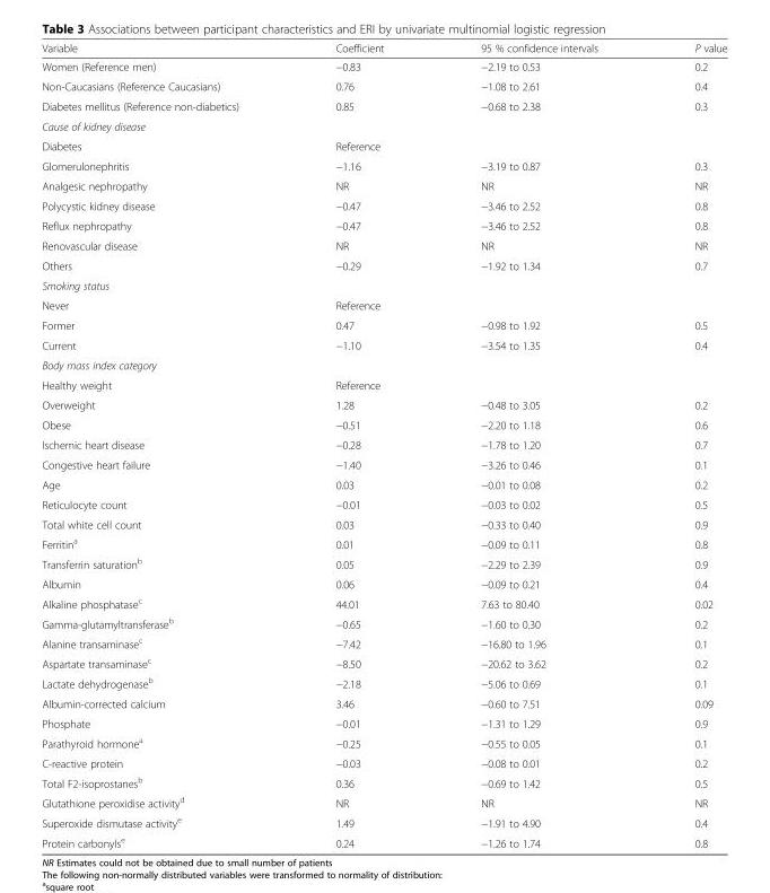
<table><thead><tr><td>Variable</td><td>Coefficient</td><td>95 % confidence intervals</td><td>P value</td></tr></thead><tbody><tr><td>Women (Reference men)</td><td>−0.83</td><td>−2.19 to 0.53</td><td>0.2</td></tr><tr><td>Non-Caucasians (Reference Caucasians)</td><td>0.76</td><td>−1.08 to 2.61</td><td>0.4</td></tr><tr><td>Diabetes mellitus (Reference non-diabetics)</td><td>0.85</td><td>−0.68 to 2.38</td><td>0.3</td></tr><tr><td colspan="4">Cause of kidney disease</td></tr><tr><td>Diabetes</td><td>Reference</td><td></td><td></td></tr><tr><td>Glomerulonephritis</td><td>−1.16</td><td>−3.19 to 0.87</td><td>0.3</td></tr><tr><td>Analgesic nephropathy</td><td>NR</td><td>NR</td><td>NR</td></tr><tr><td>Polycystic kidney disease</td><td>−0.47</td><td>−3.46 to 2.52</td><td>0.8</td></tr><tr><td>Reflux nephropathy</td><td>−0.47</td><td>−3.46 to 2.52</td><td>0.8</td></tr><tr><td>Renovascular disease</td><td>NR</td><td>NR</td><td>NR</td></tr><tr><td>Others</td><td>−0.29</td><td>−1.92 to 1.34</td><td>0.7</td></tr><tr><td colspan="4">Smoking status</td></tr><tr><td>Never</td><td>Reference</td><td></td><td></td></tr><tr><td>Former</td><td>0.47</td><td>−0.98 to 1.92</td><td>0.5</td></tr><tr><td>Current</td><td>−1.10</td><td>−3.54 to 1.35</td><td>0.4</td></tr><tr><td colspan="4">Body mass index category</td></tr><tr><td>Healthy weight</td><td>Reference</td><td></td><td></td></tr><tr><td>Overweight</td><td>1.28</td><td>−0.48 to 3.05</td><td>0.2</td></tr><tr><td>Obese</td><td>−0.51</td><td>−2.20 to 1.18</td><td>0.6</td></tr><tr><td>Ischemic heart disease</td><td>−0.28</td><td>−1.78 to 1.20</td><td>0.7</td></tr><tr><td>Congestive heart failure</td><td>−1.40</td><td>−3.26 to 0.46</td><td>0.1</td></tr><tr><td>Age</td><td>0.03</td><td>−0.01 to 0.08</td><td>0.2</td></tr><tr><td>Reticulocyte count</td><td>−0.01</td><td>−0.03 to 0.02</td><td>0.5</td></tr><tr><td>Total white cell count</td><td>0.03</td><td>−0.33 to 0.40</td><td>0.9</td></tr><tr><td>Ferritin<sup>a</sup></td><td>0.01</td><td>−0.09 to 0.11</td><td>0.8</td></tr><tr><td>Transferrin saturation<sup>b</sup></td><td>0.05</td><td>−2.29 to 2.39</td><td>0.9</td></tr><tr><td>Albumin</td><td>0.06</td><td>−0.09 to 0.21</td><td>0.4</td></tr><tr><td>Alkaline phosphatase<sup>c</sup></td><td>44.01</td><td>7.63 to 80.40</td><td>0.02</td></tr><tr><td>Gamma-glutamyltransferase<sup>b</sup></td><td>−0.65</td><td>−1.60 to 0.30</td><td>0.2</td></tr><tr><td>Alanine transaminase<sup>c</sup></td><td>−7.42</td><td>−16.80 to 1.96</td><td>0.1</td></tr><tr><td>Aspartate transaminase<sup>c</sup></td><td>−8.50</td><td>−20.62 to 3.62</td><td>0.2</td></tr><tr><td>Lactate dehydrogenase<sup>b</sup></td><td>−2.18</td><td>−5.06 to 0.69</td><td>0.1</td></tr><tr><td>Albumin-corrected calcium</td><td>3.46</td><td>−0.60 to 7.51</td><td>0.09</td></tr><tr><td>Phosphate</td><td>−0.01</td><td>−1.31 to 1.29</td><td>0.9</td></tr><tr><td>Parathyroid hormone<sup>a</sup></td><td>−0.25</td><td>−0.55 to 0.05</td><td>0.1</td></tr><tr><td>C-reactive protein</td><td>−0.03</td><td>−0.08 to 0.01</td><td>0.2</td></tr><tr><td>Total F2-isoprostanes<sup>b</sup></td><td>0.36</td><td>−0.69 to 1.42</td><td>0.5</td></tr><tr><td>Glutathione peroxidise activity<sup>d</sup></td><td>NR</td><td>NR</td><td>NR</td></tr><tr><td>Superoxide dismutase activity<sup>e</sup></td><td>1.49</td><td>−1.91 to 4.90</td><td>0.4</td></tr><tr><td>Protein carbonyls<sup>e</sup></td><td>0.24</td><td>−1.26 to 1.74</td><td>0.8</td></tr></tbody></table>